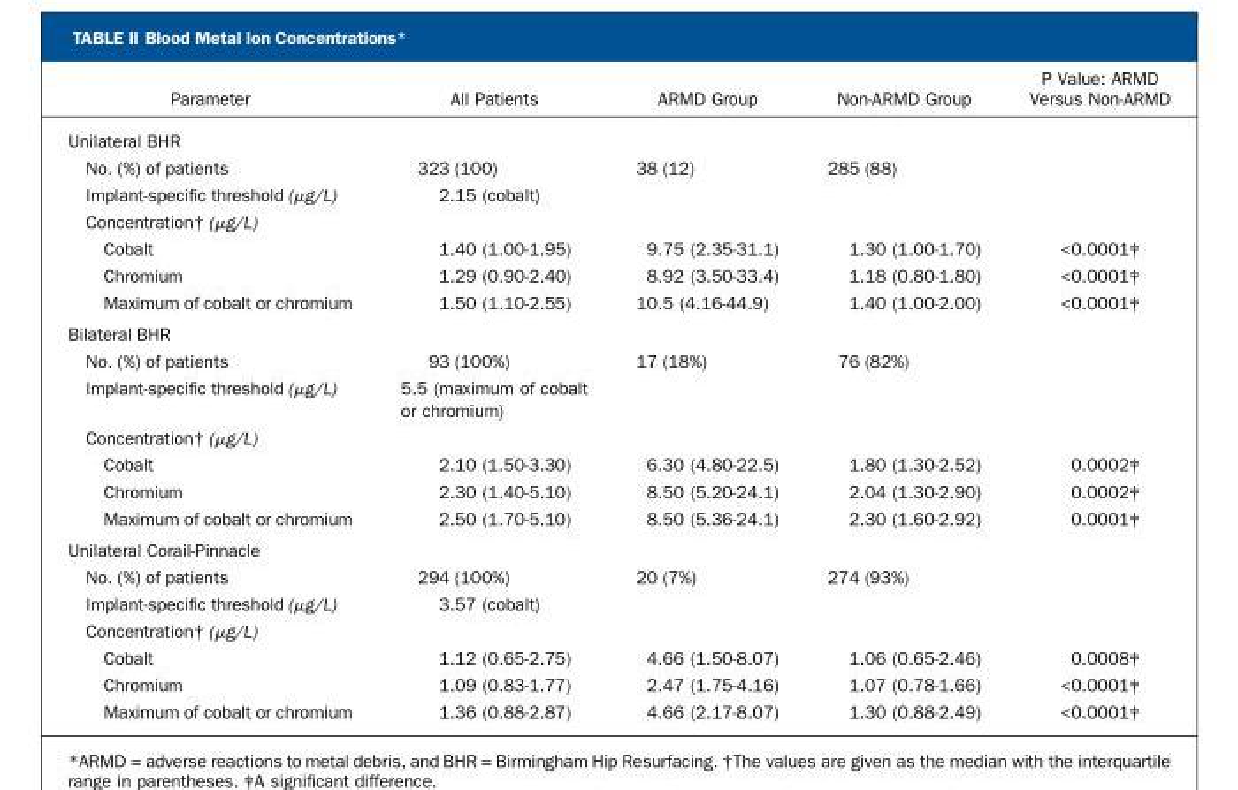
<table><thead><tr><td>Parameter</td><td>All Patients</td><td>ARMD Group</td><td>Non-ARMD Group</td><td>P Value: ARMD Versus Non-ARMD</td></tr></thead><tbody><tr><td colspan="5">Unilateral BHR</td></tr><tr><td>No. (%) of patients</td><td>323 (100)</td><td>38 (12)</td><td>285 (88)</td><td></td></tr><tr><td>Implant-specific threshold (μg/L)</td><td>2.15 (cobalt)</td><td></td><td></td><td></td></tr><tr><td colspan="5">Concentration† (μg/L)</td></tr><tr><td>Cobalt</td><td>1.40 (1.00-1.95)</td><td>9.75 (2.35-31.1)</td><td>1.30 (1.00-1.70)</td><td>&lt;0.0001‡</td></tr><tr><td>Chromium</td><td>1.29 (0.90-2.40)</td><td>8.92 (3.50-33.4)</td><td>1.18 (0.80-1.80)</td><td>&lt;0.0001‡</td></tr><tr><td>Maximum of cobalt or chromium</td><td>1.50 (1.10-2.55)</td><td>10.5 (4.16-44.9)</td><td>1.40 (1.00-2.00)</td><td>&lt;0.0001‡</td></tr><tr><td colspan="5">Bilateral BHR</td></tr><tr><td>No. (%) of patients</td><td>93 (100%)</td><td>17 (18%)</td><td>76 (82%)</td><td></td></tr><tr><td>Implant-specific threshold (μg/L)</td><td>5.5 (maximum of cobalt or chromium)</td><td></td><td></td><td></td></tr><tr><td colspan="5">Concentration† (μg/L)</td></tr><tr><td>Cobalt</td><td>2.10 (1.50-3.30)</td><td>6.30 (4.80-22.5)</td><td>1.80 (1.30-2.52)</td><td>0.0002‡</td></tr><tr><td>Chromium</td><td>2.30 (1.40-5.10)</td><td>8.50 (5.20-24.1)</td><td>2.04 (1.30-2.90)</td><td>0.0002‡</td></tr><tr><td>Maximum of cobalt or chromium</td><td>2.50 (1.70-5.10)</td><td>8.50 (5.36-24.1)</td><td>2.30 (1.60-2.92)</td><td>0.0001‡</td></tr><tr><td colspan="5">Unilateral Corail-Pinnacle</td></tr><tr><td>No. (%) of patients</td><td>294 (100%)</td><td>20 (7%)</td><td>274 (93%)</td><td></td></tr><tr><td>Implant-specific threshold (μg/L)</td><td>3.57 (cobalt)</td><td></td><td></td><td></td></tr><tr><td colspan="5">Concentration† (μg/L)</td></tr><tr><td>Cobalt</td><td>1.12 (0.65-2.75)</td><td>4.66 (1.50-8.07)</td><td>1.06 (0.65-2.46)</td><td>0.0008‡</td></tr><tr><td>Chromium</td><td>1.09 (0.83-1.77)</td><td>2.47 (1.75-4.16)</td><td>1.07 (0.78-1.66)</td><td>&lt;0.0001‡</td></tr><tr><td>Maximum of cobalt or chromium</td><td>1.36 (0.88-2.87)</td><td>4.66 (2.17-8.07)</td><td>1.30 (0.88-2.49)</td><td>&lt;0.0001‡</td></tr></tbody></table>